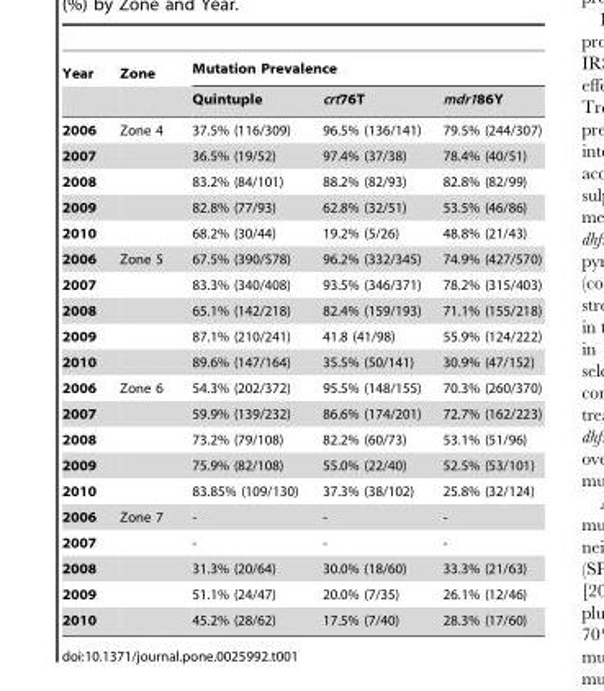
<table><thead><tr><td rowspan="2">Year</td><td rowspan="2">Zone</td><td colspan="3">Mutation Prevalence</td></tr><tr><td>Quintuple</td><td>crt76T</td><td>mdr186Y</td></tr></thead><tbody><tr><td>2006</td><td>Zone 4</td><td>37.5% (116/309)</td><td>96.5% (136/141)</td><td>79.5% (244/307)</td></tr><tr><td>2007</td><td></td><td>36.5% (19/52)</td><td>97.4% (37/38)</td><td>78.4% (40/51)</td></tr><tr><td>2008</td><td></td><td>83.2% (84/101)</td><td>88.2% (82/93)</td><td>82.8% (82/99)</td></tr><tr><td>2009</td><td></td><td>82.8% (77/93)</td><td>62.8% (32/51)</td><td>53.5% (46/86)</td></tr><tr><td>2010</td><td></td><td>68.2% (30/44)</td><td>19.2% (5/26)</td><td>48.8% (21/43)</td></tr><tr><td>2006</td><td>Zone 5</td><td>67.5% (390/578)</td><td>96.2% (332/345)</td><td>74.9% (427/570)</td></tr><tr><td>2007</td><td></td><td>83.3% (340/408)</td><td>93.5% (346/371)</td><td>78.2% (315/403)</td></tr><tr><td>2008</td><td></td><td>65.1% (142/218)</td><td>82.4% (159/193)</td><td>71.1% (155/218)</td></tr><tr><td>2009</td><td></td><td>87.1% (210/241)</td><td>41.8 (41/98)</td><td>55.9% (124/222)</td></tr><tr><td>2010</td><td></td><td>89.6% (147/164)</td><td>35.5% (50/141)</td><td>30.9% (47/152)</td></tr><tr><td>2006</td><td>Zone 6</td><td>54.3% (202/372)</td><td>95.5% (148/155)</td><td>70.3% (260/370)</td></tr><tr><td>2007</td><td></td><td>59.9% (139/232)</td><td>86.6% (174/201)</td><td>72.7% (162/223)</td></tr><tr><td>2008</td><td></td><td>73.2% (79/108)</td><td>82.2% (60/73)</td><td>53.1% (51/96)</td></tr><tr><td>2009</td><td></td><td>75.9% (82/108)</td><td>55.0% (22/40)</td><td>52.5% (53/101)</td></tr><tr><td>2010</td><td></td><td>83.85% (109/130)</td><td>37.3% (38/102)</td><td>25.8% (32/124)</td></tr><tr><td>2006</td><td>Zone 7</td><td>-</td><td>-</td><td>-</td></tr><tr><td>2007</td><td></td><td>-</td><td>-</td><td>-</td></tr><tr><td>2008</td><td></td><td>31.3% (20/64)</td><td>30.0% (18/60)</td><td>33.3% (21/63)</td></tr><tr><td>2009</td><td></td><td>51.1% (24/47)</td><td>20.0% (7/35)</td><td>26.1% (12/46)</td></tr><tr><td>2010</td><td></td><td>45.2% (28/62)</td><td>17.5% (7/40)</td><td>28.3% (17/60)</td></tr></tbody></table>